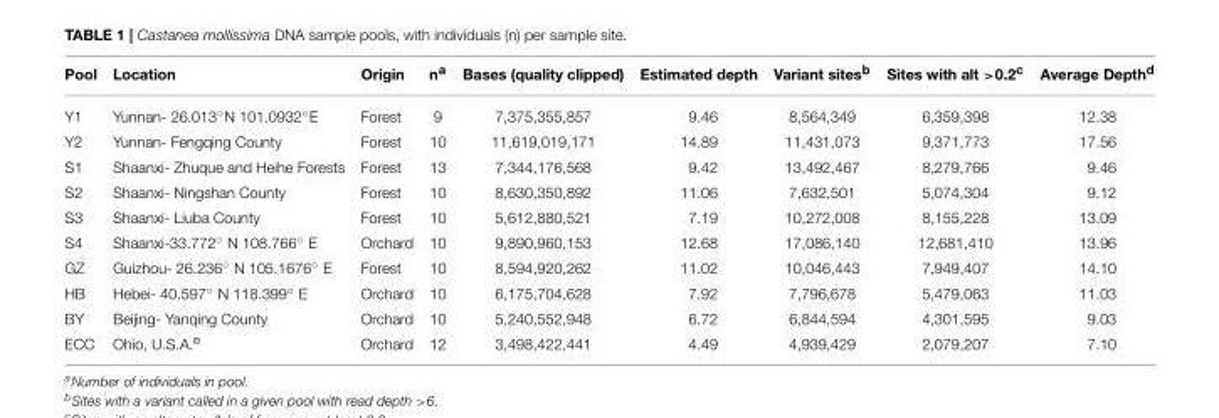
<table><thead><tr><td>Pool</td><td>Location</td><td>Origin</td><td>n<sup>a</sup></td><td>Bases (quality clipped)</td><td>Estimated depth</td><td>Variant sites<sup>b</sup></td><td>Sites with alt &gt;0.2<sup>c</sup></td><td>Average Depth<sup>d</sup></td></tr></thead><tbody><tr><td>Y1</td><td>Yunnan- 26.013◦N 101.0932◦E</td><td>Forest</td><td>9</td><td>7,375,355,857</td><td>9.46</td><td>8,564,349</td><td>6,359,398</td><td>12.38</td></tr><tr><td>Y2</td><td>Yunnan- Fengqing County</td><td>Forest</td><td>10</td><td>11,619,019,171</td><td>14.89</td><td>11,431,073</td><td>9,371,773</td><td>17.56</td></tr><tr><td>S1</td><td>Shaanxi- Zhuque and Heihe Forests</td><td>Forest</td><td>13</td><td>7,344,176,568</td><td>9.42</td><td>13,492,467</td><td>8,279,766</td><td>9.46</td></tr><tr><td>S2</td><td>Shaanxi- Ningshan County</td><td>Forest</td><td>10</td><td>8,630,350,892</td><td>11.06</td><td>7,632,501</td><td>5,074,304</td><td>9.12</td></tr><tr><td>S3</td><td>Shaanxi- Liuba County</td><td>Forest</td><td>10</td><td>5,612,880,521</td><td>7.19</td><td>10,272,008</td><td>8,155,228</td><td>13.09</td></tr><tr><td>S4</td><td>Shaanxi-33.772◦ N 108.766◦ E</td><td>Orchard</td><td>10</td><td>9,890,960,153</td><td>12.68</td><td>17,086,140</td><td>12,681,410</td><td>13.96</td></tr><tr><td>GZ</td><td>Guizhou- 26.236◦ N 105.1676◦ E</td><td>Forest</td><td>10</td><td>8,594,920,262</td><td>11.02</td><td>10,046,443</td><td>7,949,407</td><td>14.10</td></tr><tr><td>HB</td><td>Hebei- 40.597◦ N 118.399◦ E</td><td>Orchard</td><td>10</td><td>6,175,704,628</td><td>7.92</td><td>7,796,678</td><td>5,479,063</td><td>11.03</td></tr><tr><td>BY</td><td>Beijing- Yanqing County</td><td>Orchard</td><td>10</td><td>5,240,552,948</td><td>6.72</td><td>6,844,594</td><td>4,301,595</td><td>9.03</td></tr><tr><td>ECC</td><td>Ohio, U.S.A.<sup>e</sup></td><td>Orchard</td><td>12</td><td>3,498,422,441</td><td>4.49</td><td>4,939,429</td><td>2,079,207</td><td>7.10</td></tr></tbody></table>